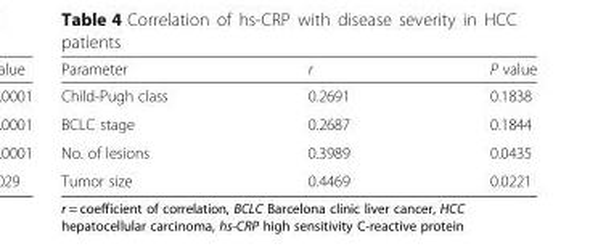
<table><thead><tr><td>Parameter</td><td>r</td><td>P value</td></tr></thead><tbody><tr><td>Child-Pugh class</td><td>0.2691</td><td>0.1838</td></tr><tr><td>BCLC stage</td><td>0.2687</td><td>0.1844</td></tr><tr><td>No. of lesions</td><td>0.3989</td><td>0.0435</td></tr><tr><td>Tumor size</td><td>0.4469</td><td>0.0221</td></tr></tbody></table>